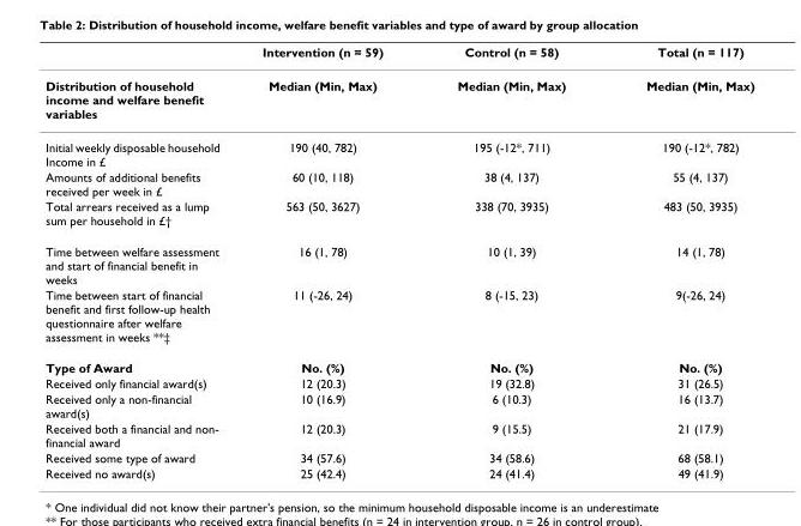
<table><thead><tr><td></td><td>Intervention (n = 59)</td><td>Control (n = 58)</td><td>Total (n = 117)</td></tr></thead><tbody><tr><td>Distribution of household income and welfare benefit variables</td><td>Median (Min, Max)</td><td>Median (Min, Max)</td><td>Median (Min, Max)</td></tr><tr><td>Initial weekly disposable household Income in £</td><td>190 (40, 782)</td><td>195 (-12*, 711)</td><td>190 (-12*, 782)</td></tr><tr><td>Amounts of additional benefits received per week in £</td><td>60 (10, 118)</td><td>38 (4, 137)</td><td>55 (4, 137)</td></tr><tr><td>Total arrears received as a lump sum per household in £†</td><td>563 (50, 3627)</td><td>338 (70, 3935)</td><td>483 (50, 3935)</td></tr><tr><td>Time between welfare assessment and start of financial benefit in weeks</td><td>16 (1, 78)</td><td>10 (1, 39)</td><td>14 (1, 78)</td></tr><tr><td>Time between start of financial benefit and first follow-up health questionnaire after welfare assessment in weeks **‡</td><td>11 (-26, 24)</td><td>8 (-15, 23)</td><td>9(-26, 24)</td></tr><tr><td>Type of Award</td><td>No. (%)</td><td>No. (%)</td><td>No. (%)</td></tr><tr><td>Received only financial award(s)</td><td>12 (20.3)</td><td>19 (32.8)</td><td>31 (26.5)</td></tr><tr><td>Received only a non-financial award(s)</td><td>10 (16.9)</td><td>6 (10.3)</td><td>16 (13.7)</td></tr><tr><td>Received both a financial and non- financial award</td><td>12 (20.3)</td><td>9 (15.5)</td><td>21 (17.9)</td></tr><tr><td>Received some type of award</td><td>34 (57.6)</td><td>34 (58.6)</td><td>68 (58.1)</td></tr><tr><td>Received no award(s)</td><td>25 (42.4)</td><td>24 (41.4)</td><td>49 (41.9)</td></tr></tbody></table>